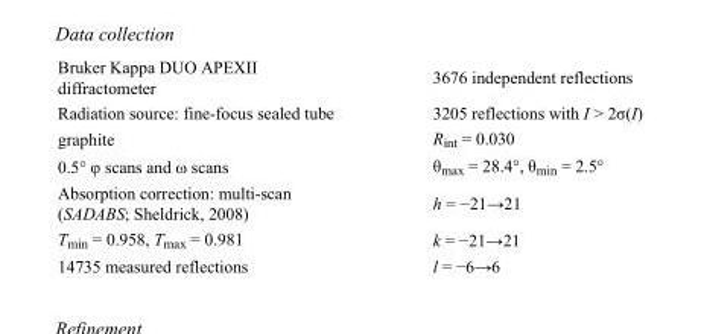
<table><tbody><tr><td>Bruker Kappa DUO APEXII diffractometer</td><td>3676 independent reflections</td></tr><tr><td>Radiation source: fine-focus sealed tube</td><td>3205 reflections with I &gt; 2σ(I)</td></tr><tr><td>graphite</td><td>R<sub>int</sub> = 0.030</td></tr><tr><td>0.5° φ scans and ω scans</td><td>θ<sub>max</sub> = 28.4°, θ<sub>min</sub> = 2.5°</td></tr><tr><td>Absorption correction: multi-scan (SADABS; Sheldrick, 2008)</td><td>h = −21→21</td></tr><tr><td>T<sub>min</sub> = 0.958, T<sub>max</sub> = 0.981</td><td>k = −21→21</td></tr><tr><td>14735 measured reflections</td><td>l = −6→6</td></tr></tbody></table>